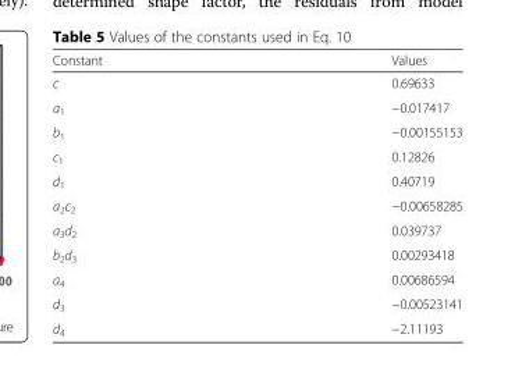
<table><thead><tr><td>Constant</td><td>Values</td></tr></thead><tbody><tr><td>c</td><td>0.69633</td></tr><tr><td>a<sub>1</sub></td><td>−0.017417</td></tr><tr><td>b<sub>1</sub></td><td>−0.00155153</td></tr><tr><td>c<sub>1</sub></td><td>0.12826</td></tr><tr><td>d<sub>1</sub></td><td>0.40719</td></tr><tr><td>a<sub>2</sub>c<sub>2</sub></td><td>−0.00658285</td></tr><tr><td>a<sub>3</sub>d<sub>2</sub></td><td>0.039737</td></tr><tr><td>b<sub>2</sub>d<sub>3</sub></td><td>0.00293418</td></tr><tr><td>a<sub>4</sub></td><td>0.00686594</td></tr><tr><td>d<sub>3</sub></td><td>−0.00523141</td></tr><tr><td>d<sub>4</sub></td><td>−2.11193</td></tr></tbody></table>